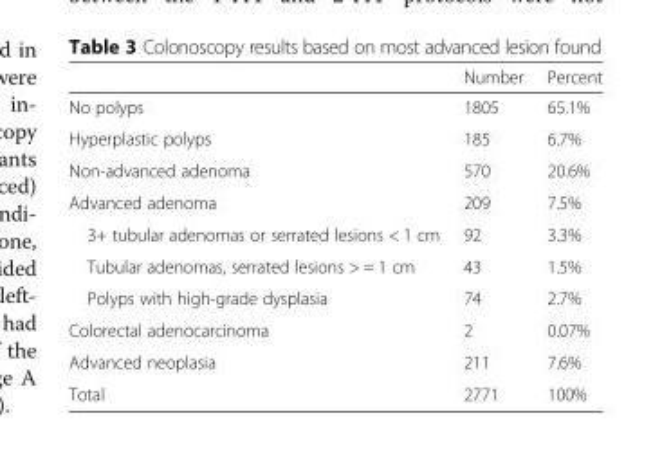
<table><thead><tr><td></td><td>Number</td><td>Percent</td></tr></thead><tbody><tr><td>No polyps</td><td>1805</td><td>65.1%</td></tr><tr><td>Hyperplastic polyps</td><td>185</td><td>6.7%</td></tr><tr><td>Non-advanced adenoma</td><td>570</td><td>20.6%</td></tr><tr><td>Advanced adenoma</td><td>209</td><td>7.5%</td></tr><tr><td>3+ tubular adenomas or serrated lesions &lt; 1 cm</td><td>92</td><td>3.3%</td></tr><tr><td>Tubular adenomas, serrated lesions &gt; = 1 cm</td><td>43</td><td>1.5%</td></tr><tr><td>Polyps with high-grade dysplasia</td><td>74</td><td>2.7%</td></tr><tr><td>Colorectal adenocarcinoma</td><td>2</td><td>0.07%</td></tr><tr><td>Advanced neoplasia</td><td>211</td><td>7.6%</td></tr><tr><td>Total</td><td>2771</td><td>100%</td></tr></tbody></table>